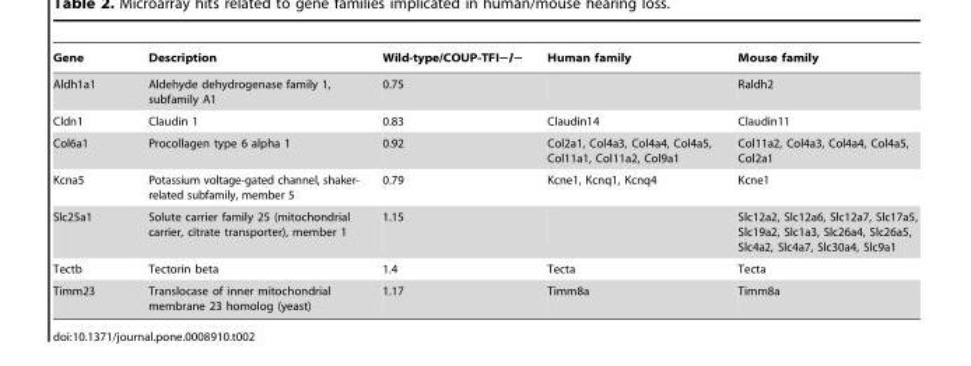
<table><thead><tr><td>Gene</td><td>Description</td><td>Wild-type/COUP-TFI−/−</td><td>Human family</td><td>Mouse family</td></tr></thead><tbody><tr><td>Aldh1a1</td><td>Aldehyde dehydrogenase family 1, subfamily A1</td><td>0.75</td><td></td><td>Raldh2</td></tr><tr><td>Cldn1</td><td>Claudin 1</td><td>0.83</td><td>Claudin14</td><td>Claudin11</td></tr><tr><td>Col6a1</td><td>Procollagen type 6 alpha 1</td><td>0.92</td><td>Col2a1, Col4a3, Col4a4, Col4a5, Col11a1, Col11a2, Col9a1</td><td>Col11a2, Col4a3, Col4a4, Col4a5, Col2a1</td></tr><tr><td>Kcna5</td><td>Potassium voltage-gated channel, shaker- related subfamily, member 5</td><td>0.79</td><td>Kcne1, Kcnq1, Kcnq4</td><td>Kcne1</td></tr><tr><td>Slc25a1</td><td>Solute carrier family 25 (mitochondrial carrier, citrate transporter), member 1</td><td>1.15</td><td></td><td>Slc12a2, Slc12a6, Slc12a7, Slc17a5, Slc19a2, Slc1a3, Slc26a4, Slc26a5, Slc4a2, Slc4a7, Slc30a4, Slc9a1</td></tr><tr><td>Tectb</td><td>Tectorin beta</td><td>1.4</td><td>Tecta</td><td>Tecta</td></tr><tr><td>Timm23</td><td>Translocase of inner mitochondrial membrane 23 homolog (yeast)</td><td>1.17</td><td>Timm8a</td><td>Timm8a</td></tr></tbody></table>